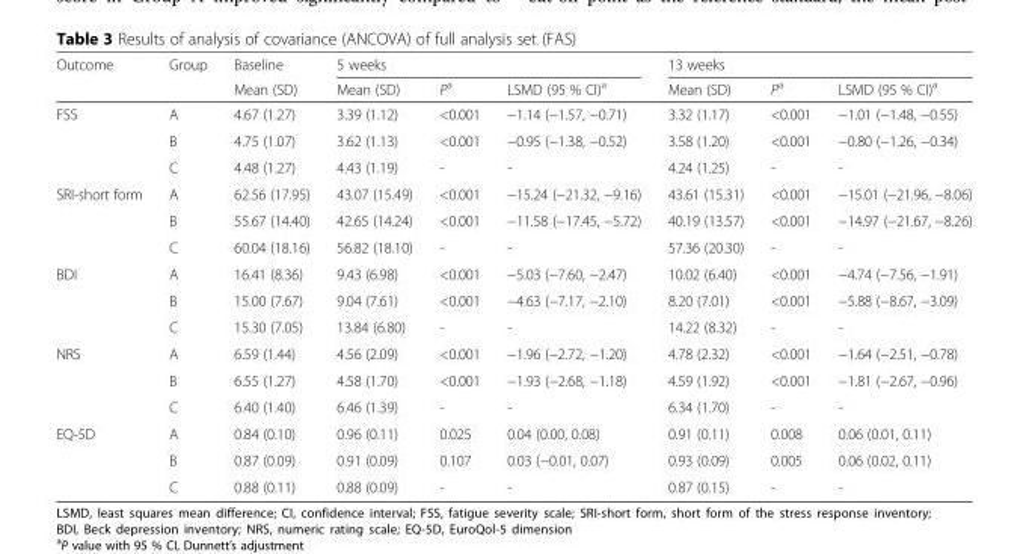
<table><thead><tr><td rowspan="2">Outcome</td><td rowspan="2">Group</td><td rowspan="2">Baseline Mean (SD)</td><td colspan="3">5 weeks</td><td colspan="3">13 weeks</td></tr><tr><td>Mean (SD)</td><td>P<sup>a</sup></td><td>LSMD (95 % CI)<sup>a</sup></td><td>Mean (SD)</td><td>P<sup>a</sup></td><td>LSMD (95 % CI)<sup>a</sup></td></tr></thead><tbody><tr><td rowspan="3">FSS</td><td>A</td><td>4.67 (1.27)</td><td>3.39 (1.12)</td><td>&lt;0.001</td><td>−1.14 (−1.57, −0.71)</td><td>3.32 (1.17)</td><td>&lt;0.001</td><td>−1.01 (−1.48, −0.55)</td></tr><tr><td>B</td><td>4.75 (1.07)</td><td>3.62 (1.13)</td><td>&lt;0.001</td><td>−0.95 (−1.38, −0.52)</td><td>3.58 (1.20)</td><td>&lt;0.001</td><td>−0.80 (−1.26, −0.34)</td></tr><tr><td>C</td><td>4.48 (1.27)</td><td>4.43 (1.19)</td><td>-</td><td>-</td><td>4.24 (1.25)</td><td>-</td><td>-</td></tr><tr><td rowspan="3">SRI-short form</td><td>A</td><td>62.56 (17.95)</td><td>43.07 (15.49)</td><td>&lt;0.001</td><td>−15.24 (−21.32, −9.16)</td><td>43.61 (15.31)</td><td>&lt;0.001</td><td>−15.01 (−21.96, −8.06)</td></tr><tr><td>B</td><td>55.67 (14.40)</td><td>42.65 (14.24)</td><td>&lt;0.001</td><td>−11.58 (−17.45, −5.72)</td><td>40.19 (13.57)</td><td>&lt;0.001</td><td>−14.97 (−21.67, −8.26)</td></tr><tr><td>C</td><td>60.04 (18.16)</td><td>56.82 (18.10)</td><td>-</td><td>-</td><td>57.36 (20.30)</td><td>-</td><td>-</td></tr><tr><td rowspan="3">BDI</td><td>A</td><td>16.41 (8.36)</td><td>9.43 (6.98)</td><td>&lt;0.001</td><td>−5.03 (−7.60, −2.47)</td><td>10.02 (6.40)</td><td>&lt;0.001</td><td>−4.74 (−7.56, −1.91)</td></tr><tr><td>B</td><td>15.00 (7.67)</td><td>9.04 (7.61)</td><td>&lt;0.001</td><td>−4.63 (−7.17, −2.10)</td><td>8.20 (7.01)</td><td>&lt;0.001</td><td>−5.88 (−8.67, −3.09)</td></tr><tr><td>C</td><td>15.30 (7.05)</td><td>13.84 (6.80)</td><td>-</td><td>-</td><td>14.22 (8.32)</td><td>-</td><td>-</td></tr><tr><td rowspan="3">NRS</td><td>A</td><td>6.59 (1.44)</td><td>4.56 (2.09)</td><td>&lt;0.001</td><td>−1.96 (−2.72, −1.20)</td><td>4.78 (2.32)</td><td>&lt;0.001</td><td>−1.64 (−2.51, −0.78)</td></tr><tr><td>B</td><td>6.55 (1.27)</td><td>4.58 (1.70)</td><td>&lt;0.001</td><td>−1.93 (−2.68, −1.18)</td><td>4.59 (1.92)</td><td>&lt;0.001</td><td>−1.81 (−2.67, −0.96)</td></tr><tr><td>C</td><td>6.40 (1.40)</td><td>6.46 (1.39)</td><td>-</td><td>-</td><td>6.34 (1.70)</td><td>-</td><td>-</td></tr><tr><td rowspan="3">EQ-5D</td><td>A</td><td>0.84 (0.10)</td><td>0.96 (0.11)</td><td>0.025</td><td>0.04 (0.00, 0.08)</td><td>0.91 (0.11)</td><td>0.008</td><td>0.06 (0.01, 0.11)</td></tr><tr><td>B</td><td>0.87 (0.09)</td><td>0.91 (0.09)</td><td>0.107</td><td>0.03 (−0.01, 0.07)</td><td>0.93 (0.09)</td><td>0.005</td><td>0.06 (0.02, 0.11)</td></tr><tr><td>C</td><td>0.88 (0.11)</td><td>0.88 (0.09)</td><td>-</td><td>-</td><td>0.87 (0.15)</td><td>-</td><td>-</td></tr></tbody></table>